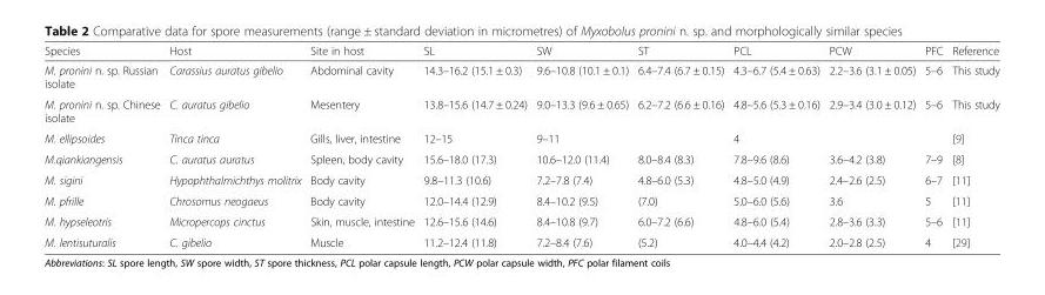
<table><thead><tr><td>Species</td><td>Host</td><td>Site in host</td><td>SL</td><td>SW</td><td>ST</td><td>PCL</td><td>PCW</td><td>PFC</td><td>Reference</td></tr></thead><tbody><tr><td>M. pronini n. sp. Russian isolate</td><td>Carassius auratus gibelio</td><td>Abdominal cavity</td><td>14.3–16.2 (15.1 ± 0.3)</td><td>9.6–10.8 (10.1 ± 0.1)</td><td>6.4–7.4 (6.7 ± 0.15)</td><td>4.3–6.7 (5.4 ± 0.63)</td><td>2.2–3.6 (3.1 ± 0.05)</td><td>5–6</td><td>This study</td></tr><tr><td>M. pronini n. sp. Chinese isolate</td><td>C. auratus gibelio</td><td>Mesentery</td><td>13.8–15.6 (14.7 ± 0.24)</td><td>9.0–13.3 (9.6 ± 0.65)</td><td>6.2–7.2 (6.6 ± 0.16)</td><td>4.8–5.6 (5.3 ± 0.16)</td><td>2.9–3.4 (3.0 ± 0.12)</td><td>5–6</td><td>This study</td></tr><tr><td>M. ellipsoides</td><td>Tinca tinca</td><td>Gills, liver, intestine</td><td>12–15</td><td>9–11</td><td></td><td>4</td><td></td><td></td><td>[9]</td></tr><tr><td>M.qiankiangensis</td><td>C. auratus auratus</td><td>Spleen, body cavity</td><td>15.6–18.0 (17.3)</td><td>10.6–12.0 (11.4)</td><td>8.0–8.4 (8.3)</td><td>7.8–9.6 (8.6)</td><td>3.6–4.2 (3.8)</td><td>7–9</td><td>[8]</td></tr><tr><td>M. sigini</td><td>Hypophthalmichthys molitrix</td><td>Body cavity</td><td>9.8–11.3 (10.6)</td><td>7.2–7.8 (7.4)</td><td>4.8–6.0 (5.3)</td><td>4.8–5.0 (4.9)</td><td>2.4–2.6 (2.5)</td><td>6–7</td><td>[11]</td></tr><tr><td>M. pfrille</td><td>Chrosomus neogaeus</td><td>Body cavity</td><td>12.0–14.4 (12.9)</td><td>8.4–10.2 (9.5)</td><td>(7.0)</td><td>5.0–6.0 (5.6)</td><td>3.6</td><td>5</td><td>[11]</td></tr><tr><td>M. hypseleotris</td><td>Micropercops cinctus</td><td>Skin, muscle, intestine</td><td>12.6–15.6 (14.6)</td><td>8.4–10.8 (9.7)</td><td>6.0–7.2 (6.6)</td><td>4.8–6.0 (5.4)</td><td>2.8–3.6 (3.3)</td><td>5–6</td><td>[11]</td></tr><tr><td>M. lentisuturalis</td><td>C. gibelio</td><td>Muscle</td><td>11.2–12.4 (11.8)</td><td>7.2–8.4 (7.6)</td><td>(5.2)</td><td>4.0–4.4 (4.2)</td><td>2.0–2.8 (2.5)</td><td>4</td><td>[29]</td></tr></tbody></table>